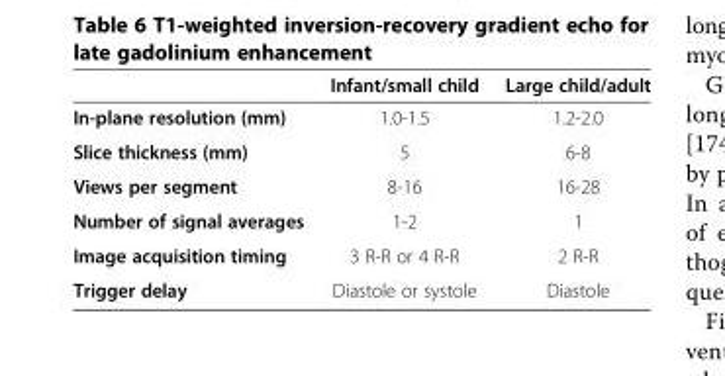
<table><thead><tr><td></td><td>Infant/small child</td><td>Large child/adult</td></tr></thead><tbody><tr><td>In-plane resolution (mm)</td><td>1.0-1.5</td><td>1.2-2.0</td></tr><tr><td>Slice thickness (mm)</td><td>5</td><td>6-8</td></tr><tr><td>Views per segment</td><td>8-16</td><td>16-28</td></tr><tr><td>Number of signal averages</td><td>1-2</td><td>1</td></tr><tr><td>Image acquisition timing</td><td>3 R-R or 4 R-R</td><td>2 R-R</td></tr><tr><td>Trigger delay</td><td>Diastole or systole</td><td>Diastole</td></tr></tbody></table>